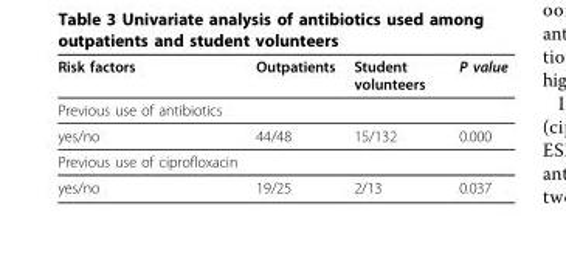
<table><thead><tr><td>Risk factors</td><td>Outpatients</td><td>Student volunteers</td><td>P value</td></tr></thead><tbody><tr><td colspan="4">Previous use of antibiotics</td></tr><tr><td>yes/no</td><td>44/48</td><td>15/132</td><td>0.000</td></tr><tr><td colspan="4">Previous use of ciprofloxacin</td></tr><tr><td>yes/no</td><td>19/25</td><td>2/13</td><td>0.037</td></tr></tbody></table>